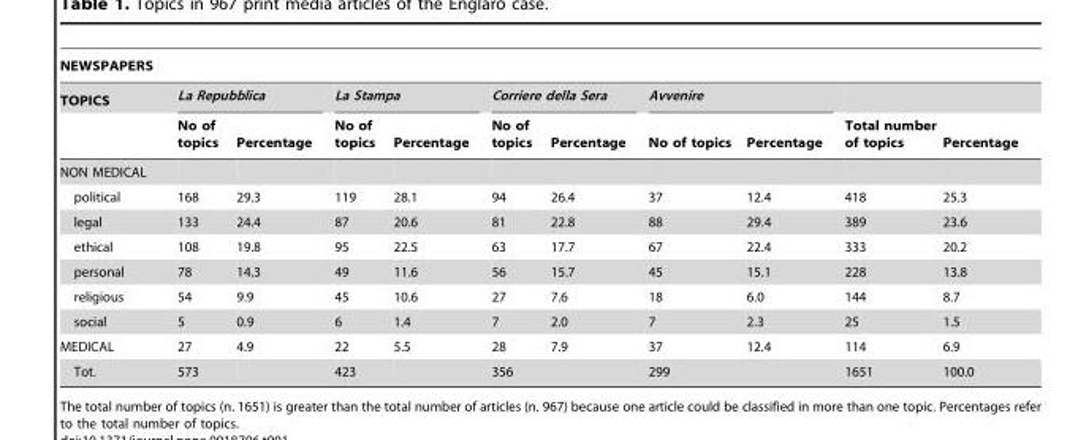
<table><thead><tr><td colspan="11">NEWSPAPERS</td></tr><tr><td rowspan="2">TOPICS</td><td colspan="2">La Repubblica</td><td colspan="2">La Stampa</td><td colspan="2">Corriere della Sera</td><td colspan="2">Avvenire</td><td rowspan="2">Total number of topics</td><td rowspan="2">Percentage</td></tr><tr><td>No of topics</td><td>Percentage</td><td>No of topics</td><td>Percentage</td><td>No of topics</td><td>Percentage</td><td>No of topics</td><td>Percentage</td></tr></thead><tbody><tr><td colspan="11">NON MEDICAL</td></tr><tr><td>political</td><td>168</td><td>29.3</td><td>119</td><td>28.1</td><td>94</td><td>26.4</td><td>37</td><td>12.4</td><td>418</td><td>25.3</td></tr><tr><td>legal</td><td>133</td><td>24.4</td><td>87</td><td>20.6</td><td>81</td><td>22.8</td><td>88</td><td>29.4</td><td>389</td><td>23.6</td></tr><tr><td>ethical</td><td>108</td><td>19.8</td><td>95</td><td>22.5</td><td>63</td><td>17.7</td><td>67</td><td>22.4</td><td>333</td><td>20.2</td></tr><tr><td>personal</td><td>78</td><td>14.3</td><td>49</td><td>11.6</td><td>56</td><td>15.7</td><td>45</td><td>15.1</td><td>228</td><td>13.8</td></tr><tr><td>religious</td><td>54</td><td>9.9</td><td>45</td><td>10.6</td><td>27</td><td>7.6</td><td>18</td><td>6.0</td><td>144</td><td>8.7</td></tr><tr><td>social</td><td>5</td><td>0.9</td><td>6</td><td>1.4</td><td>7</td><td>2.0</td><td>7</td><td>2.3</td><td>25</td><td>1.5</td></tr><tr><td>MEDICAL</td><td>27</td><td>4.9</td><td>22</td><td>5.5</td><td>28</td><td>7.9</td><td>37</td><td>12.4</td><td>114</td><td>6.9</td></tr><tr><td>Tot.</td><td>573</td><td></td><td>423</td><td></td><td>356</td><td></td><td>299</td><td></td><td>1651</td><td>100.0</td></tr></tbody></table>